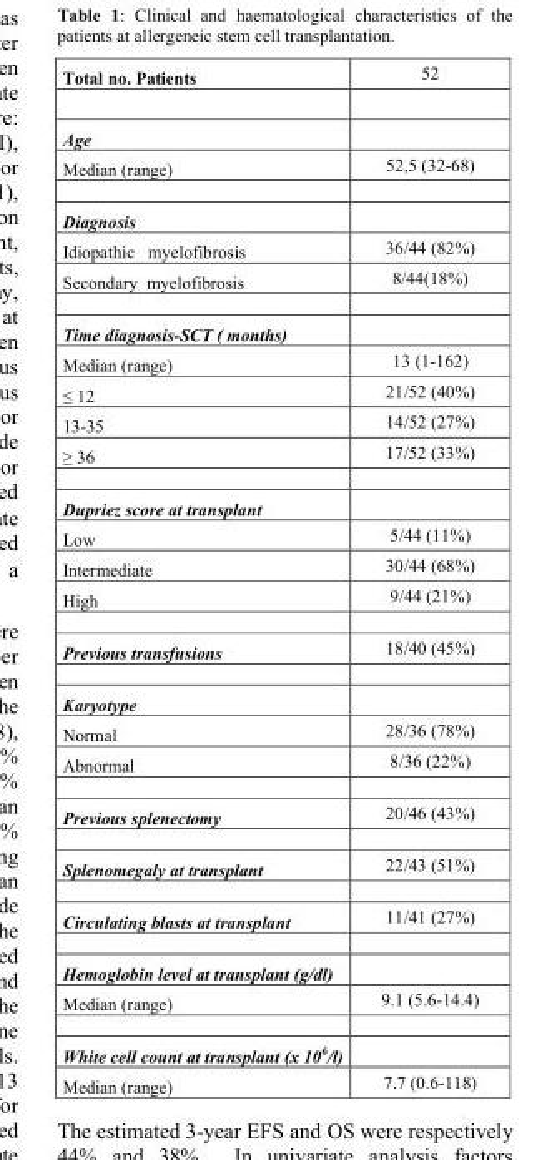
<table><tbody><tr><td>Total no. Patients</td><td>52</td></tr><tr><td colspan="2">Age</td></tr><tr><td>Median (range)</td><td>52,5 (32-68)</td></tr><tr><td colspan="2">Diagnosis</td></tr><tr><td>Idiopathic myelofibrosis</td><td>36/44 (82%)</td></tr><tr><td>Secondary myelofibrosis</td><td>8/44(18%)</td></tr><tr><td colspan="2">Time diagnosis-SCT ( months)</td></tr><tr><td>Median (range)</td><td>13 (1-162)</td></tr><tr><td>≤ 12</td><td>21/52 (40%)</td></tr><tr><td>13-35</td><td>14/52 (27%)</td></tr><tr><td>≥ 36</td><td>17/52 (33%)</td></tr><tr><td colspan="2">Dupriez score at transplant</td></tr><tr><td>Low</td><td>5/44 (11%)</td></tr><tr><td>Intermediate</td><td>30/44 (68%)</td></tr><tr><td>High</td><td>9/44 (21%)</td></tr><tr><td>Previous transfusions</td><td>18/40 (45%)</td></tr><tr><td colspan="2">Karyotype</td></tr><tr><td>Normal</td><td>28/36 (78%)</td></tr><tr><td>Abnormal</td><td>8/36 (22%)</td></tr><tr><td>Previous splenectomy</td><td>20/46 (43%)</td></tr><tr><td>Splenomegaly at transplant</td><td>22/43 (51%)</td></tr><tr><td>Circulating blasts at transplant</td><td>11/41 (27%)</td></tr><tr><td colspan="2">Hemoglobin level at transplant (g/dl)</td></tr><tr><td>Median (range)</td><td>9.1 (5.6-14.4)</td></tr><tr><td colspan="2">White cell count at transplant (x 10<sup>6</sup>/l)</td></tr><tr><td>Median (range)</td><td>7.7 (0.6-118)</td></tr></tbody></table>